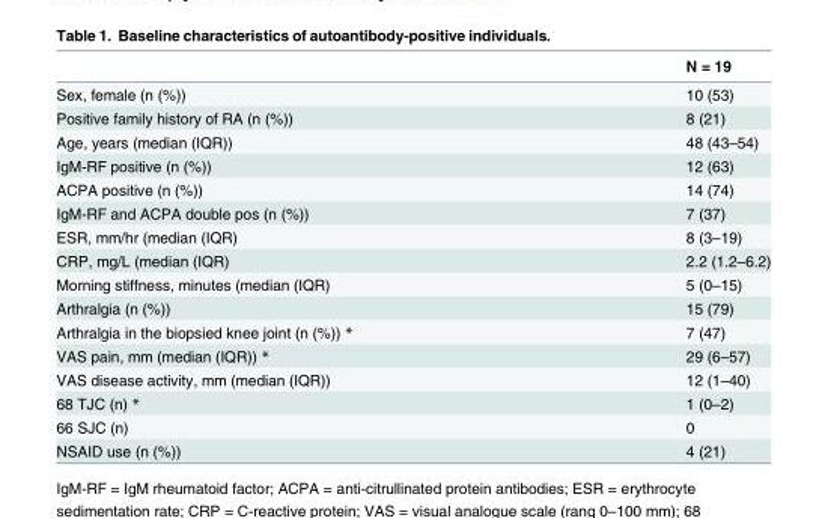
<table><thead><tr><td></td><td>N = 19</td></tr></thead><tbody><tr><td>Sex, female (n (%))</td><td>10 (53)</td></tr><tr><td>Positive family history of RA (n (%))</td><td>8 (21)</td></tr><tr><td>Age, years (median (IQR))</td><td>48 (43–54)</td></tr><tr><td>IgM-RF positive (n (%))</td><td>12 (63)</td></tr><tr><td>ACPA positive (n (%))</td><td>14 (74)</td></tr><tr><td>IgM-RF and ACPA double pos (n (%))</td><td>7 (37)</td></tr><tr><td>ESR, mm/hr (median (IQR)</td><td>8 (3–19)</td></tr><tr><td>CRP, mg/L (median (IQR)</td><td>2.2 (1.2–6.2)</td></tr><tr><td>Morning stiffness, minutes (median (IQR)</td><td>5 (0–15)</td></tr><tr><td>Arthralgia (n (%))</td><td>15 (79)</td></tr><tr><td>Arthralgia in the biopsied knee joint (n (%)) *</td><td>7 (47)</td></tr><tr><td>VAS pain, mm (median (IQR)) *</td><td>29 (6–57)</td></tr><tr><td>VAS disease activity, mm (median (IQR))</td><td>12 (1–40)</td></tr><tr><td>68 TJC (n) *</td><td>1 (0–2)</td></tr><tr><td>66 SJC (n)</td><td>0</td></tr><tr><td>NSAID use (n (%))</td><td>4 (21)</td></tr></tbody></table>